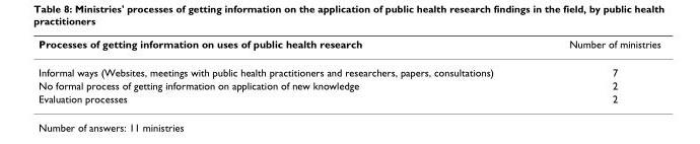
<table><thead><tr><td>Processes of getting information on uses of public health research</td><td>Number of ministries</td></tr></thead><tbody><tr><td>Informal ways (Websites, meetings with public health practitioners and researchers, papers, consultations)</td><td>7</td></tr><tr><td>No formal process of getting information on application of new knowledge</td><td>2</td></tr><tr><td>Evaluation processes</td><td>2</td></tr></tbody></table>